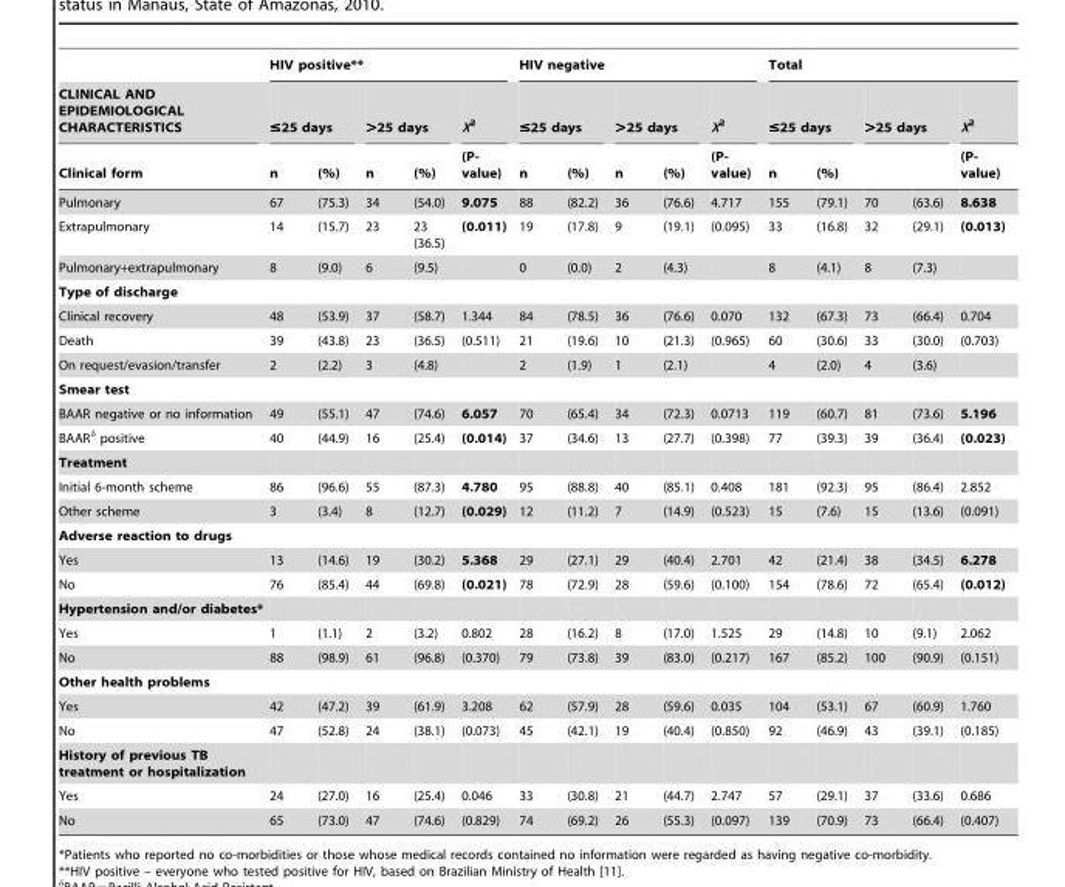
<table><thead><tr><td rowspan="3">CLINICAL AND EPIDEMIOLOGICAL CHARACTERISTICS Clinical form</td><td colspan="5">HIV positive**</td><td colspan="5">HIV negative</td><td colspan="5">Total</td></tr><tr><td colspan="2">≤25 days</td><td colspan="2">&gt;25 days</td><td rowspan="2">X<sup>2</sup> (P- value)</td><td colspan="2">≤25 days</td><td colspan="2">&gt;25 days</td><td rowspan="2">X<sup>2</sup> (P- value)</td><td colspan="2">≤25 days</td><td colspan="2">&gt;25 days</td><td rowspan="2">X<sup>2</sup> (P- value)</td></tr><tr><td>n</td><td>(%)</td><td>n</td><td>(%)</td><td>n</td><td>(%)</td><td>n</td><td>(%)</td><td>n</td><td>(%)</td><td></td><td></td></tr></thead><tbody><tr><td>Pulmonary</td><td>67</td><td>(75.3)</td><td>34</td><td>(54.0)</td><td>9.075</td><td>88</td><td>(82.2)</td><td>36</td><td>(76.6)</td><td>4.717</td><td>155</td><td>(79.1)</td><td>70</td><td>(63.6)</td><td>8.638</td></tr><tr><td>Extrapulmonary</td><td>14</td><td>(15.7)</td><td>23</td><td>23 (36.5)</td><td>(0.011)</td><td>19</td><td>(17.8)</td><td>9</td><td>(19.1)</td><td>(0.095)</td><td>33</td><td>(16.8)</td><td>32</td><td>(29.1)</td><td>(0.013)</td></tr><tr><td>Pulmonary+extrapulmonary</td><td>8</td><td>(9.0)</td><td>6</td><td>(9.5)</td><td></td><td>0</td><td>(0.0)</td><td>2</td><td>(4.3)</td><td></td><td>8</td><td>(4.1)</td><td>8</td><td>(7.3)</td><td></td></tr><tr><td colspan="16">Type of discharge</td></tr><tr><td>Clinical recovery</td><td>48</td><td>(53.9)</td><td>37</td><td>(58.7)</td><td>1.344</td><td>84</td><td>(78.5)</td><td>36</td><td>(76.6)</td><td>0.070</td><td>132</td><td>(67.3)</td><td>73</td><td>(66.4)</td><td>0.704</td></tr><tr><td>Death</td><td>39</td><td>(43.8)</td><td>23</td><td>(36.5)</td><td>(0.511)</td><td>21</td><td>(19.6)</td><td>10</td><td>(21.3)</td><td>(0.965)</td><td>60</td><td>(30.6)</td><td>33</td><td>(30.0)</td><td>(0.703)</td></tr><tr><td>On request/evasion/transfer</td><td>2</td><td>(2.2)</td><td>3</td><td>(4.8)</td><td></td><td>2</td><td>(1.9)</td><td>1</td><td>(2.1)</td><td></td><td>4</td><td>(2.0)</td><td>4</td><td>(3.6)</td><td></td></tr><tr><td colspan="16">Smear test</td></tr><tr><td>BAAR negative or no information</td><td>49</td><td>(55.1)</td><td>47</td><td>(74.6)</td><td>6.057</td><td>70</td><td>(65.4)</td><td>34</td><td>(72.3)</td><td>0.0713</td><td>119</td><td>(60.7)</td><td>81</td><td>(73.6)</td><td>5.196</td></tr><tr><td>BAARδ positive</td><td>40</td><td>(44.9)</td><td>16</td><td>(25.4)</td><td>(0.014)</td><td>37</td><td>(34.6)</td><td>13</td><td>(27.7)</td><td>(0.398)</td><td>77</td><td>(39.3)</td><td>39</td><td>(36.4)</td><td>(0.023)</td></tr><tr><td colspan="16">Treatment</td></tr><tr><td>Initial 6-month scheme</td><td>86</td><td>(96.6)</td><td>55</td><td>(87.3)</td><td>4.780</td><td>95</td><td>(88.8)</td><td>40</td><td>(85.1)</td><td>0.408</td><td>181</td><td>(92.3)</td><td>95</td><td>(86.4)</td><td>2.852</td></tr><tr><td>Other scheme</td><td>3</td><td>(3.4)</td><td>8</td><td>(12.7)</td><td>(0.029)</td><td>12</td><td>(11.2)</td><td>7</td><td>(14.9)</td><td>(0.523)</td><td>15</td><td>(7.6)</td><td>15</td><td>(13.6)</td><td>(0.091)</td></tr><tr><td colspan="16">Adverse reaction to drugs</td></tr><tr><td>Yes</td><td>13</td><td>(14.6)</td><td>19</td><td>(30.2)</td><td>5.368</td><td>29</td><td>(27.1)</td><td>29</td><td>(40.4)</td><td>2.701</td><td>42</td><td>(21.4)</td><td>38</td><td>(34.5)</td><td>6.278</td></tr><tr><td>No</td><td>76</td><td>(85.4)</td><td>44</td><td>(69.8)</td><td>(0.021)</td><td>78</td><td>(72.9)</td><td>28</td><td>(59.6)</td><td>(0.100)</td><td>154</td><td>(78.6)</td><td>72</td><td>(65.4)</td><td>(0.012)</td></tr><tr><td colspan="16">Hypertension and/or diabetes*</td></tr><tr><td>Yes</td><td>1</td><td>(1.1)</td><td>2</td><td>(3.2)</td><td>0.802</td><td>28</td><td>(16.2)</td><td>8</td><td>(17.0)</td><td>1.525</td><td>29</td><td>(14.8)</td><td>10</td><td>(9.1)</td><td>2.062</td></tr><tr><td>No</td><td>88</td><td>(98.9)</td><td>61</td><td>(96.8)</td><td>(0.370)</td><td>79</td><td>(73.8)</td><td>39</td><td>(83.0)</td><td>(0.217)</td><td>167</td><td>(85.2)</td><td>100</td><td>(90.9)</td><td>(0.151)</td></tr><tr><td colspan="16">Other health problems</td></tr><tr><td>Yes</td><td>42</td><td>(47.2)</td><td>39</td><td>(61.9)</td><td>3.208</td><td>62</td><td>(57.9)</td><td>28</td><td>(59.6)</td><td>0.035</td><td>104</td><td>(53.1)</td><td>67</td><td>(60.9)</td><td>1.760</td></tr><tr><td>No</td><td>47</td><td>(52.8)</td><td>24</td><td>(38.1)</td><td>(0.073)</td><td>45</td><td>(42.1)</td><td>19</td><td>(40.4)</td><td>(0.850)</td><td>92</td><td>(46.9)</td><td>43</td><td>(39.1)</td><td>(0.185)</td></tr><tr><td colspan="16">History of previous TB treatment or hospitalization</td></tr><tr><td>Yes</td><td>24</td><td>(27.0)</td><td>16</td><td>(25.4)</td><td>0.046</td><td>33</td><td>(30.8)</td><td>21</td><td>(44.7)</td><td>2.747</td><td>57</td><td>(29.1)</td><td>37</td><td>(33.6)</td><td>0.686</td></tr><tr><td>No</td><td>65</td><td>(73.0)</td><td>47</td><td>(74.6)</td><td>(0.829)</td><td>74</td><td>(69.2)</td><td>26</td><td>(55.3)</td><td>(0.097)</td><td>139</td><td>(70.9)</td><td>73</td><td>(66.4)</td><td>(0.407)</td></tr></tbody></table>